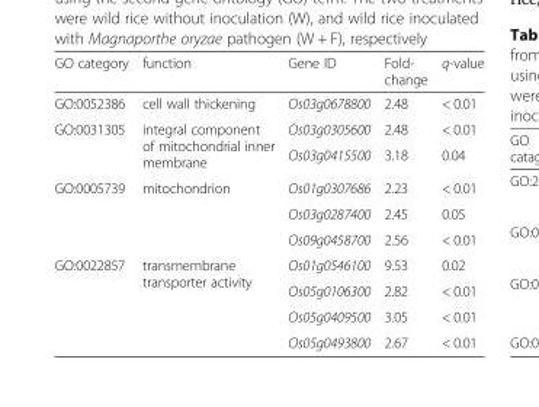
<table><thead><tr><td>GO category</td><td>function</td><td>Gene ID</td><td>Fold- change</td><td>q-value</td></tr></thead><tbody><tr><td>GO:0052386</td><td>cell wall thickening</td><td>Os03g0678800</td><td>2.48</td><td>&lt; 0.01</td></tr><tr><td rowspan="2">GO:0031305</td><td rowspan="2">integral component of mitochondrial inner membrane</td><td>Os03g0305600</td><td>2.48</td><td>&lt; 0.01</td></tr><tr><td>Os03g0415500</td><td>3.18</td><td>0.04</td></tr><tr><td rowspan="3">GO:0005739</td><td rowspan="3">mitochondrion</td><td>Os01g0307686</td><td>2.23</td><td>&lt; 0.01</td></tr><tr><td>Os03g0287400</td><td>2.45</td><td>0.05</td></tr><tr><td>Os09g0458700</td><td>2.56</td><td>&lt; 0.01</td></tr><tr><td rowspan="4">GO:0022857</td><td rowspan="4">transmembrane transporter activity</td><td>Os01g0546100</td><td>9.53</td><td>0.02</td></tr><tr><td>Os05g0106300</td><td>2.82</td><td>&lt; 0.01</td></tr><tr><td>Os05g0409500</td><td>3.05</td><td>&lt; 0.01</td></tr><tr><td>Os05g0493800</td><td>2.67</td><td>&lt; 0.01</td></tr></tbody></table>